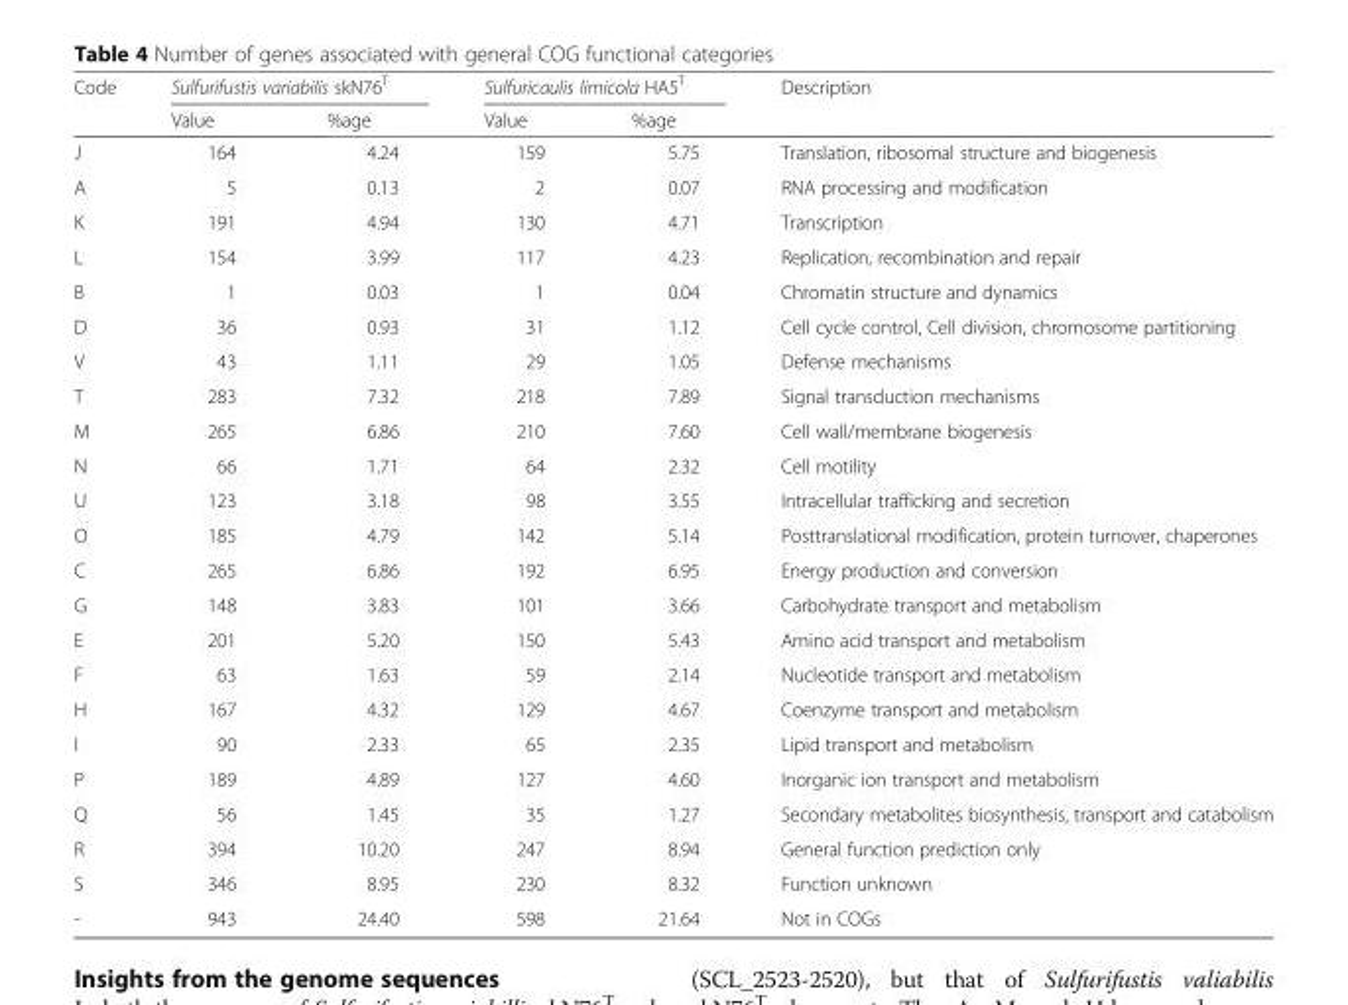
<table><thead><tr><td rowspan="2">Code</td><td colspan="2">Sulfurifustis variabilis skN76<sup>T</sup></td><td colspan="2">Sulfuricaulis limicola HA5<sup>T</sup></td><td rowspan="2">Description</td></tr><tr><td>Value</td><td>%age</td><td>Value</td><td>%age</td></tr></thead><tbody><tr><td>J</td><td>164</td><td>4.24</td><td>159</td><td>5.75</td><td>Translation, ribosomal structure and biogenesis</td></tr><tr><td>A</td><td>5</td><td>0.13</td><td>2</td><td>0.07</td><td>RNA processing and modification</td></tr><tr><td>K</td><td>191</td><td>4.94</td><td>130</td><td>4.71</td><td>Transcription</td></tr><tr><td>L</td><td>154</td><td>3.99</td><td>117</td><td>4.23</td><td>Replication, recombination and repair</td></tr><tr><td>B</td><td>1</td><td>0.03</td><td>1</td><td>0.04</td><td>Chromatin structure and dynamics</td></tr><tr><td>D</td><td>36</td><td>0.93</td><td>31</td><td>1.12</td><td>Cell cycle control, Cell division, chromosome partitioning</td></tr><tr><td>V</td><td>43</td><td>1.11</td><td>29</td><td>1.05</td><td>Defense mechanisms</td></tr><tr><td>T</td><td>283</td><td>7.32</td><td>218</td><td>7.89</td><td>Signal transduction mechanisms</td></tr><tr><td>M</td><td>265</td><td>6.86</td><td>210</td><td>7.60</td><td>Cell wall/membrane biogenesis</td></tr><tr><td>N</td><td>66</td><td>1.71</td><td>64</td><td>2.32</td><td>Cell motility</td></tr><tr><td>U</td><td>123</td><td>3.18</td><td>98</td><td>3.55</td><td>Intracellular trafficking and secretion</td></tr><tr><td>O</td><td>185</td><td>4.79</td><td>142</td><td>5.14</td><td>Posttranslational modification, protein turnover, chaperones</td></tr><tr><td>C</td><td>265</td><td>6.86</td><td>192</td><td>6.95</td><td>Energy production and conversion</td></tr><tr><td>G</td><td>148</td><td>3.83</td><td>101</td><td>3.66</td><td>Carbohydrate transport and metabolism</td></tr><tr><td>E</td><td>201</td><td>5.20</td><td>150</td><td>5.43</td><td>Amino acid transport and metabolism</td></tr><tr><td>F</td><td>63</td><td>1.63</td><td>59</td><td>2.14</td><td>Nucleotide transport and metabolism</td></tr><tr><td>H</td><td>167</td><td>4.32</td><td>129</td><td>4.67</td><td>Coenzyme transport and metabolism</td></tr><tr><td>I</td><td>90</td><td>2.33</td><td>65</td><td>2.35</td><td>Lipid transport and metabolism</td></tr><tr><td>P</td><td>189</td><td>4.89</td><td>127</td><td>4.60</td><td>Inorganic ion transport and metabolism</td></tr><tr><td>Q</td><td>56</td><td>1.45</td><td>35</td><td>1.27</td><td>Secondary metabolites biosynthesis, transport and catabolism</td></tr><tr><td>R</td><td>394</td><td>10.20</td><td>247</td><td>8.94</td><td>General function prediction only</td></tr><tr><td>S</td><td>346</td><td>8.95</td><td>230</td><td>8.32</td><td>Function unknown</td></tr><tr><td>-</td><td>943</td><td>24.40</td><td>598</td><td>21.64</td><td>Not in COGs</td></tr></tbody></table>